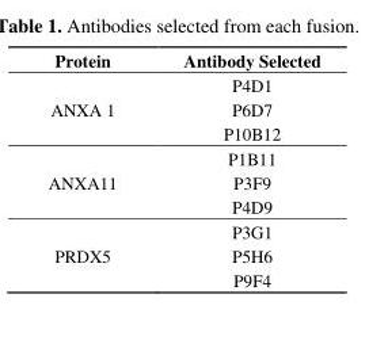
<table><thead><tr><td>Protein</td><td>Antibody Selected</td></tr></thead><tbody><tr><td rowspan="3">ANXA 1</td><td>P4D1</td></tr><tr><td>P6D7</td></tr><tr><td>P10B12</td></tr><tr><td rowspan="3">ANXA11</td><td>P1B11</td></tr><tr><td>P3F9</td></tr><tr><td>P4D9</td></tr><tr><td rowspan="3">PRDX5</td><td>P3G1</td></tr><tr><td>P5H6</td></tr><tr><td>P9F4</td></tr></tbody></table>